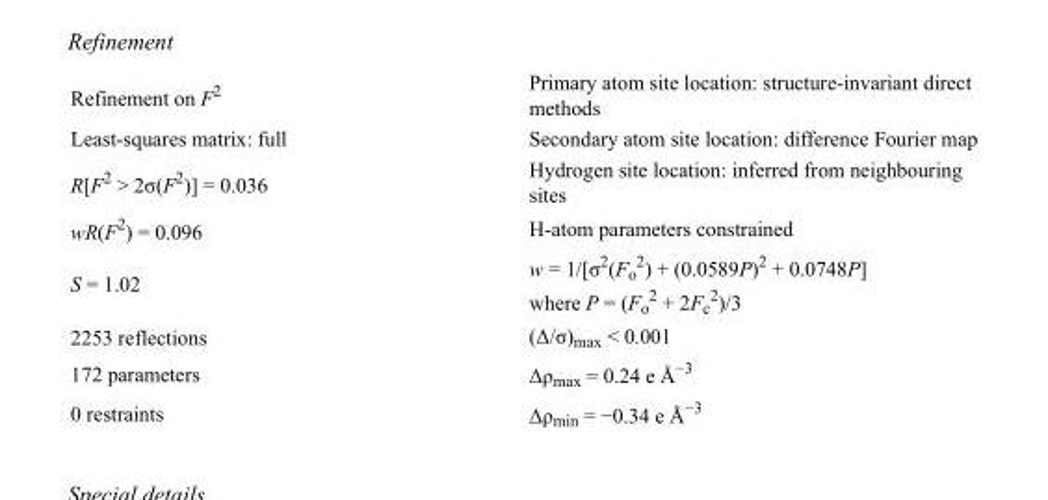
<table><tbody><tr><td>Refinement on F<sup>2</sup></td><td>Primary atom site location: structure-invariant direct methods</td></tr><tr><td>Least-squares matrix: full</td><td>Secondary atom site location: difference Fourier map</td></tr><tr><td>R[F<sup>2</sup> &gt; 2σ(F<sup>2</sup>)] = 0.036</td><td>Hydrogen site location: inferred from neighbouring sites</td></tr><tr><td>wR(F<sup>2</sup>) = 0.096</td><td>H-atom parameters constrained</td></tr><tr><td>S = 1.02</td><td>w = 1/[σ<sup>2</sup>(F<sub>o</sub> <sup>2</sup>) + (0.0589P)<sup>2</sup> + 0.0748P] where P = (F<sub>o</sub> <sup>2</sup> + 2F<sub>c</sub> <sup>2</sup>)/3</td></tr><tr><td>2253 reflections</td><td>(Δ/σ)<sub>max</sub> &lt; 0.001</td></tr><tr><td>172 parameters</td><td>Δρ<sub>max</sub> = 0.24 e Å<sup>−3</sup></td></tr><tr><td>0 restraints</td><td>Δρ<sub>min</sub> = −0.34 e Å<sup>−3</sup></td></tr></tbody></table>